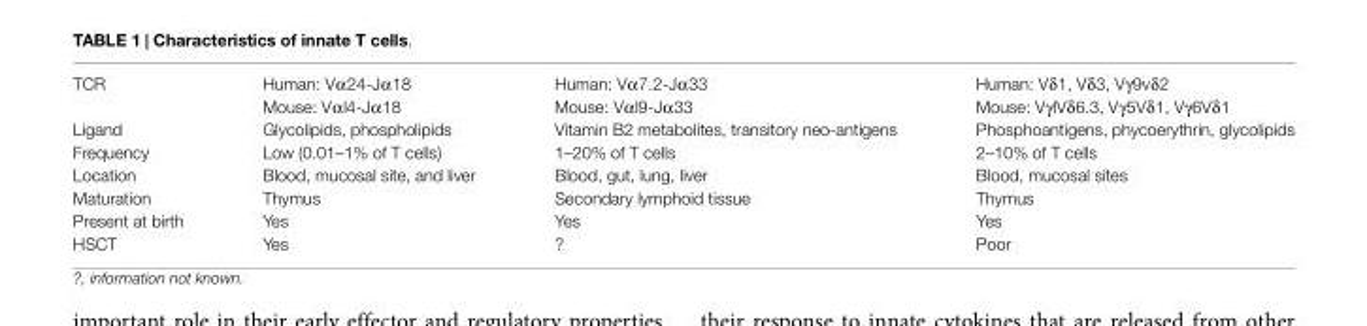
<table><tbody><tr><td rowspan="2">TCR</td><td>Human: Vα24-Jα18</td><td>Human: Vα7.2-Jα33</td><td>Human: Vδ1, Vδ3, Vγ9vδ2</td></tr><tr><td>Mouse: Vαl4-Jα18</td><td>Mouse: Vαl9-Jα33</td><td>Mouse: VγlVδ6.3, Vγ5Vδ1, Vγ6Vδ1</td></tr><tr><td>Ligand</td><td>Glycolipids, phospholipids</td><td>Vitamin B2 metabolites, transitory neo-antigens</td><td>Phosphoantigens, phycoerythrin, glycolipids</td></tr><tr><td>Frequency</td><td>Low (0.01–1% of T cells)</td><td>1–20% of T cells</td><td>2–10% of T cells</td></tr><tr><td>Location</td><td>Blood, mucosal site, and liver</td><td>Blood, gut, lung, liver</td><td>Blood, mucosal sites</td></tr><tr><td>Maturation</td><td>Thymus</td><td>Secondary lymphoid tissue</td><td>Thymus</td></tr><tr><td>Present at birth</td><td>Yes</td><td>Yes</td><td>Yes</td></tr><tr><td>HSCT</td><td>Yes</td><td>?</td><td>Poor</td></tr></tbody></table>